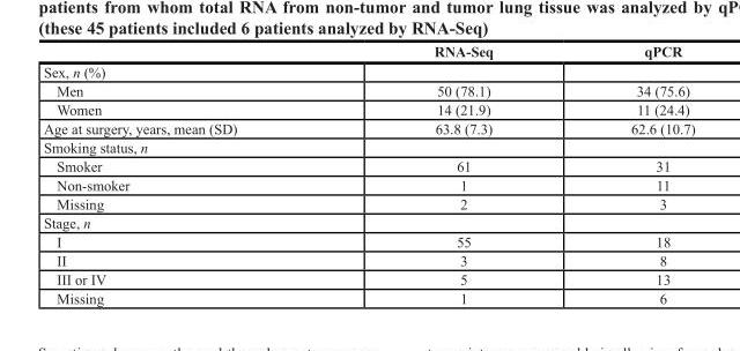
<table><thead><tr><td></td><td>RNA‑Seq</td><td>qPCR</td></tr></thead><tbody><tr><td colspan="3">Sex, n (%)</td></tr><tr><td>Men</td><td>50 (78.1)</td><td>34 (75.6)</td></tr><tr><td>Women</td><td>14 (21.9)</td><td>11 (24.4)</td></tr><tr><td>Age at surgery, years, mean (SD)</td><td>63.8 (7.3)</td><td>62.6 (10.7)</td></tr><tr><td colspan="3">Smoking status, n</td></tr><tr><td>Smoker</td><td>61</td><td>31</td></tr><tr><td>Non‑smoker</td><td>1</td><td>11</td></tr><tr><td>Missing</td><td>2</td><td>3</td></tr><tr><td colspan="3">Stage, n</td></tr><tr><td>I</td><td>55</td><td>18</td></tr><tr><td>II</td><td>3</td><td>8</td></tr><tr><td>III or IV</td><td>5</td><td>13</td></tr><tr><td>Missing</td><td>1</td><td>6</td></tr></tbody></table>